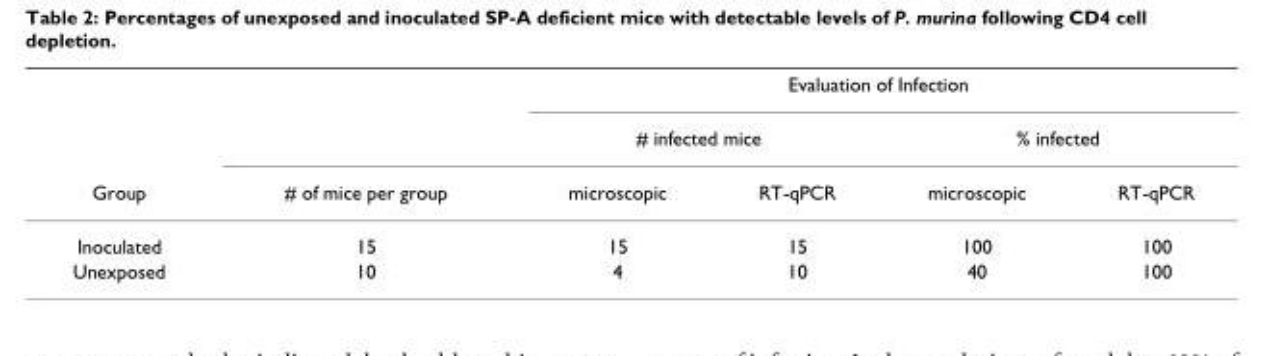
<table><thead><tr><td rowspan="3">Group</td><td rowspan="3"># of mice per group</td><td colspan="4">Evaluation of Infection</td></tr><tr><td colspan="2"># infected mice</td><td colspan="2">% infected</td></tr><tr><td>microscopic</td><td>RT-qPCR</td><td>microscopic</td><td>RT-qPCR</td></tr></thead><tbody><tr><td>Inoculated</td><td>15</td><td>15</td><td>15</td><td>100</td><td>100</td></tr><tr><td>Unexposed</td><td>10</td><td>4</td><td>10</td><td>40</td><td>100</td></tr></tbody></table>